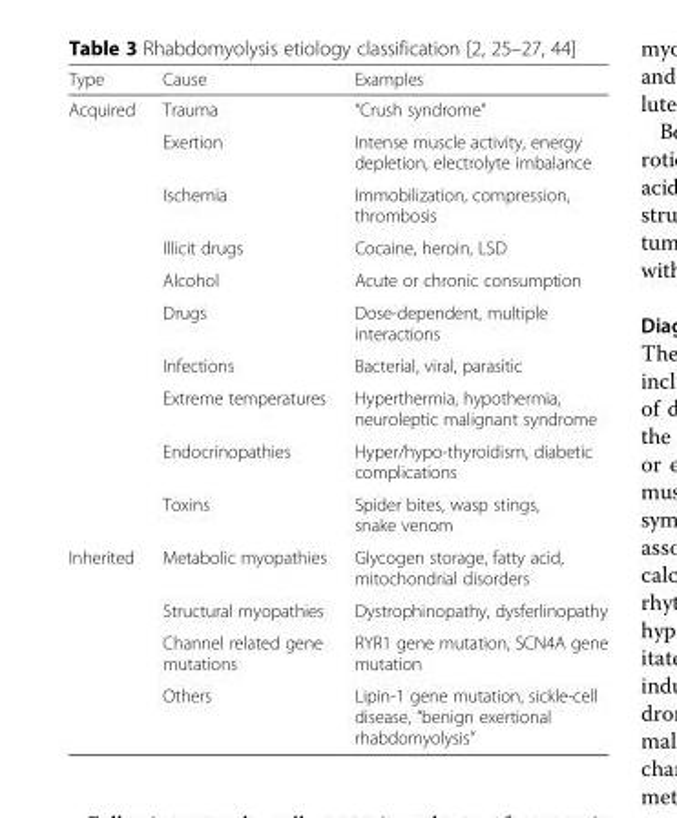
<table><thead><tr><td>Type</td><td>Cause</td><td>Examples</td></tr></thead><tbody><tr><td rowspan="10">Acquired</td><td>Trauma</td><td>“Crush syndrome”</td></tr><tr><td>Exertion</td><td>Intense muscle activity, energy depletion, electrolyte imbalance</td></tr><tr><td>Ischemia</td><td>Immobilization, compression, thrombosis</td></tr><tr><td>Illicit drugs</td><td>Cocaine, heroin, LSD</td></tr><tr><td>Alcohol</td><td>Acute or chronic consumption</td></tr><tr><td>Drugs</td><td>Dose-dependent, multiple interactions</td></tr><tr><td>Infections</td><td>Bacterial, viral, parasitic</td></tr><tr><td>Extreme temperatures</td><td>Hyperthermia, hypothermia, neuroleptic malignant syndrome</td></tr><tr><td>Endocrinopathies</td><td>Hyper/hypo-thyroidism, diabetic complications</td></tr><tr><td>Toxins</td><td>Spider bites, wasp stings, snake venom</td></tr><tr><td rowspan="4">Inherited</td><td>Metabolic myopathies</td><td>Glycogen storage, fatty acid, mitochondrial disorders</td></tr><tr><td>Structural myopathies</td><td>Dystrophinopathy, dysferlinopathy</td></tr><tr><td>Channel related gene mutations</td><td>RYR1 gene mutation, SCN4A gene mutation</td></tr><tr><td>Others</td><td>Lipin-1 gene mutation, sickle-cell disease, “benign exertional rhabdomyolysis”</td></tr></tbody></table>